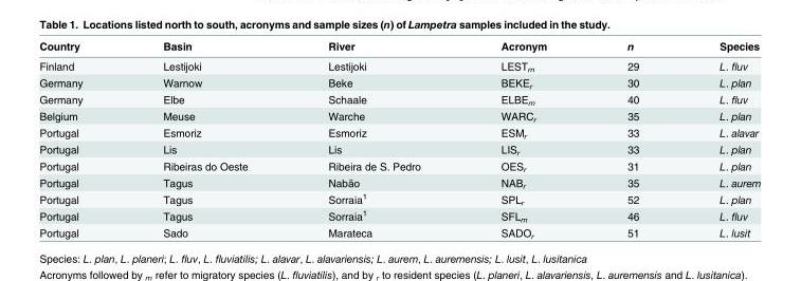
<table><thead><tr><td>Country</td><td>Basin</td><td>River</td><td>Acronym</td><td>n</td><td>Species</td></tr></thead><tbody><tr><td>Finland</td><td>Lestijoki</td><td>Lestijoki</td><td>LEST<sub>m</sub></td><td>29</td><td>L. fluv</td></tr><tr><td>Germany</td><td>Warnow</td><td>Beke</td><td>BEKE<sub>r</sub></td><td>30</td><td>L. plan</td></tr><tr><td>Germany</td><td>Elbe</td><td>Schaale</td><td>ELBE<sub>m</sub></td><td>40</td><td>L. fluv</td></tr><tr><td>Belgium</td><td>Meuse</td><td>Warche</td><td>WARC<sub>r</sub></td><td>35</td><td>L. plan</td></tr><tr><td>Portugal</td><td>Esmoriz</td><td>Esmoriz</td><td>ESM<sub>r</sub></td><td>33</td><td>L. alavar</td></tr><tr><td>Portugal</td><td>Lis</td><td>Lis</td><td>LIS<sub>r</sub></td><td>33</td><td>L. plan</td></tr><tr><td>Portugal</td><td>Ribeiras do Oeste</td><td>Ribeira de S. Pedro</td><td>OES<sub>r</sub></td><td>31</td><td>L. plan</td></tr><tr><td>Portugal</td><td>Tagus</td><td>Nabão</td><td>NAB<sub>r</sub></td><td>35</td><td>L. aurem</td></tr><tr><td>Portugal</td><td>Tagus</td><td>Sorraia<sup>1</sup></td><td>SPL<sub>r</sub></td><td>52</td><td>L. plan</td></tr><tr><td>Portugal</td><td>Tagus</td><td>Sorraia<sup>1</sup></td><td>SFL<sub>m</sub></td><td>46</td><td>L. fluv</td></tr><tr><td>Portugal</td><td>Sado</td><td>Marateca</td><td>SADO<sub>r</sub></td><td>51</td><td>L. lusit</td></tr></tbody></table>